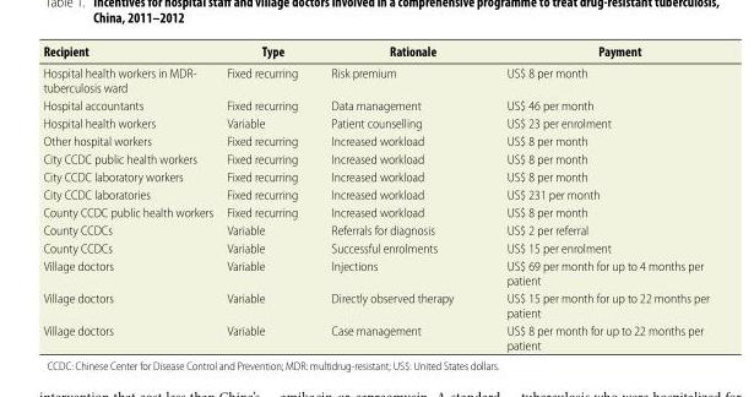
<table><thead><tr><td>Recipient</td><td>Type</td><td>Rationale</td><td>Payment</td></tr></thead><tbody><tr><td>Hospital health workers in MDR- tuberculosis ward</td><td>Fixed recurring</td><td>Risk premium</td><td>US$ 8 per month</td></tr><tr><td>Hospital accountants</td><td>Fixed recurring</td><td>Data management</td><td>US$ 46 per month</td></tr><tr><td>Hospital health workers</td><td>Variable</td><td>Patient counselling</td><td>US$ 23 per enrolment</td></tr><tr><td>Other hospital workers</td><td>Fixed recurring</td><td>Increased workload</td><td>US$ 8 per month</td></tr><tr><td>City CCDC public health workers</td><td>Fixed recurring</td><td>Increased workload</td><td>US$ 8 per month</td></tr><tr><td>City CCDC laboratory workers</td><td>Fixed recurring</td><td>Increased workload</td><td>US$ 8 per month</td></tr><tr><td>City CCDC laboratories</td><td>Fixed recurring</td><td>Increased workload</td><td>US$ 231 per month</td></tr><tr><td>County CCDC public health workers</td><td>Fixed recurring</td><td>Increased workload</td><td>US$ 8 per month</td></tr><tr><td>County CCDCs</td><td>Variable</td><td>Referrals for diagnosis</td><td>US$ 2 per referral</td></tr><tr><td>County CCDCs</td><td>Variable</td><td>Successful enrolments</td><td>US$ 15 per enrolment</td></tr><tr><td>Village doctors</td><td>Variable</td><td>Injections</td><td>US$ 69 per month for up to 4 months per patient</td></tr><tr><td>Village doctors</td><td>Variable</td><td>Directly observed therapy</td><td>US$ 15 per month for up to 22 months per patient</td></tr><tr><td>Village doctors</td><td>Variable</td><td>Case management</td><td>US$ 8 per month for up to 22 months per patient</td></tr></tbody></table>